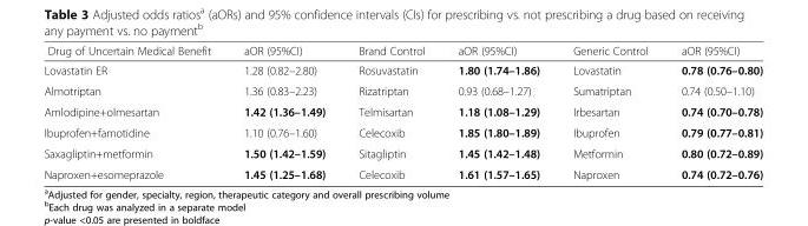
<table><thead><tr><td>Drug of Uncertain Medical Benefit</td><td>aOR (95%CI)</td><td>Brand Control</td><td>aOR (95%CI)</td><td>Generic Control</td><td>aOR (95%CI)</td></tr></thead><tbody><tr><td>Lovastatin ER</td><td>1.28 (0.82–2.80)</td><td>Rosuvastatin</td><td>1.80 (1.74–1.86)</td><td>Lovastatin</td><td>0.78 (0.76–0.80)</td></tr><tr><td>Almotriptan</td><td>1.36 (0.83–2.23)</td><td>Rizatriptan</td><td>0.93 (0.68–1.27)</td><td>Sumatriptan</td><td>0.74 (0.50–1.10)</td></tr><tr><td>Amlodipine+olmesartan</td><td>1.42 (1.36–1.49)</td><td>Telmisartan</td><td>1.18 (1.08–1.29)</td><td>Irbesartan</td><td>0.74 (0.70–0.78)</td></tr><tr><td>Ibuprofen+famotidine</td><td>1.10 (0.76–1.60)</td><td>Celecoxib</td><td>1.85 (1.80–1.89)</td><td>Ibuprofen</td><td>0.79 (0.77–0.81)</td></tr><tr><td>Saxagliptin+metformin</td><td>1.50 (1.42–1.59)</td><td>Sitagliptin</td><td>1.45 (1.42–1.48)</td><td>Metformin</td><td>0.80 (0.72–0.89)</td></tr><tr><td>Naproxen+esomeprazole</td><td>1.45 (1.25–1.68)</td><td>Celecoxib</td><td>1.61 (1.57–1.65)</td><td>Naproxen</td><td>0.74 (0.72–0.76)</td></tr></tbody></table>